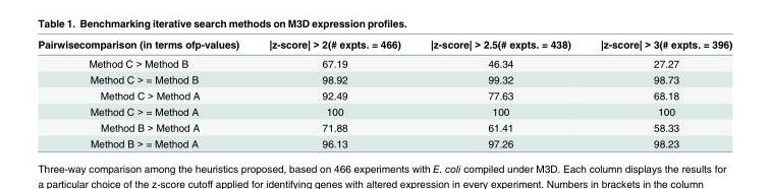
<table><thead><tr><td>Pairwisecomparison (in terms ofp-values)</td><td>|z-score| &gt; 2(# expts. = 466)</td><td>|z-score| &gt; 2.5(# expts. = 438)</td><td>|z-score| &gt; 3(# expts. = 396)</td></tr></thead><tbody><tr><td>Method C &gt; Method B</td><td>67.19</td><td>46.34</td><td>27.27</td></tr><tr><td>Method C &gt; = Method B</td><td>98.92</td><td>99.32</td><td>98.73</td></tr><tr><td>Method C &gt; Method A</td><td>92.49</td><td>77.63</td><td>68.18</td></tr><tr><td>Method C &gt; = Method A</td><td>100</td><td>100</td><td>100</td></tr><tr><td>Method B &gt; Method A</td><td>71.88</td><td>61.41</td><td>58.33</td></tr><tr><td>Method B &gt; = Method A</td><td>96.13</td><td>97.26</td><td>98.23</td></tr></tbody></table>